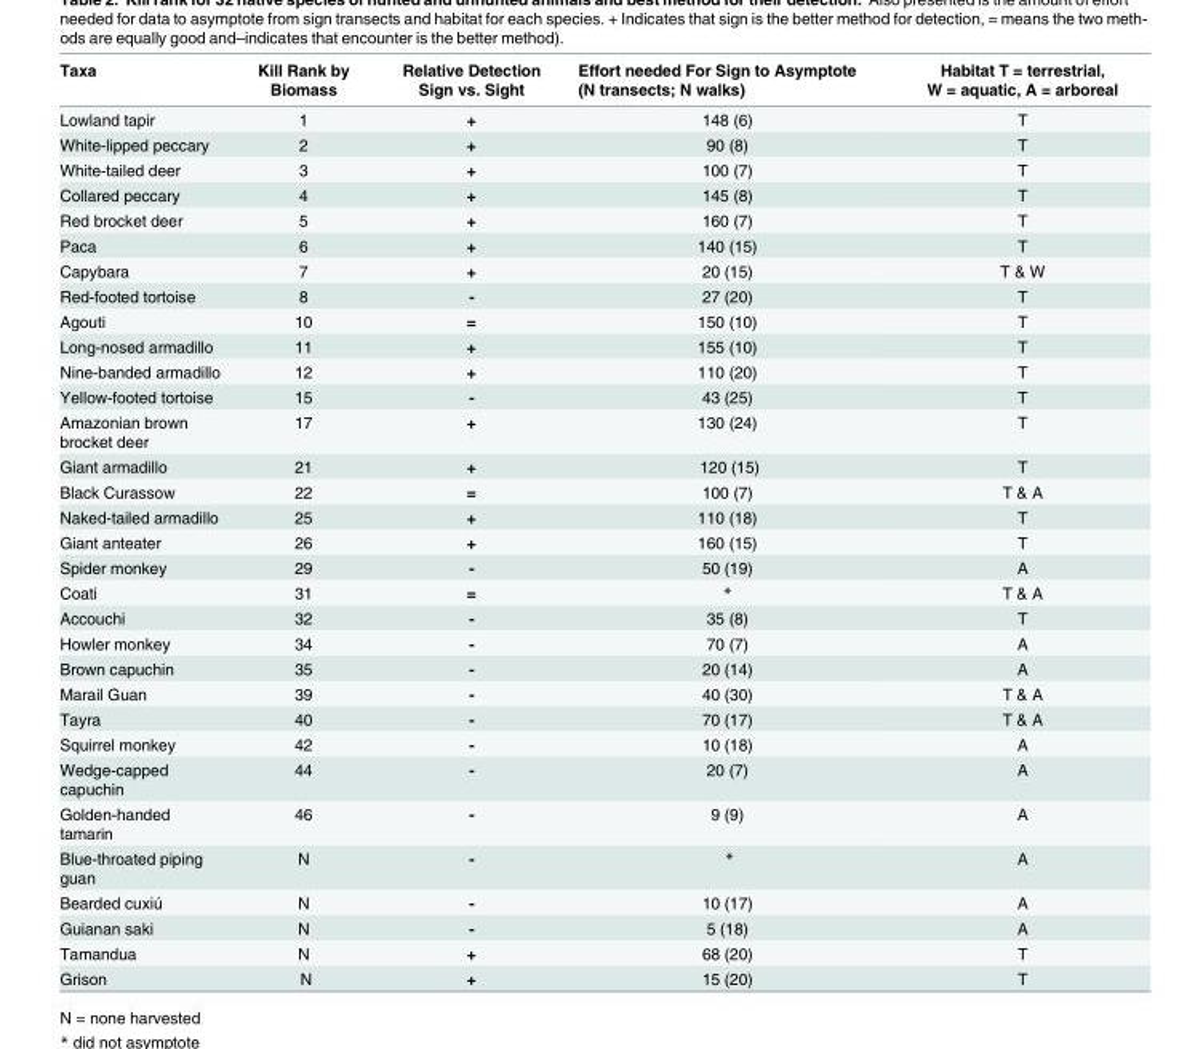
<table><thead><tr><td>Taxa</td><td>Kill Rank by Biomass</td><td>Relative Detection Sign vs. Sight</td><td>Effort needed For Sign to Asymptote (N transects; N walks)</td><td>Habitat T = terrestrial, W = aquatic, A = arboreal</td></tr></thead><tbody><tr><td>Lowland tapir</td><td>1</td><td>+</td><td>148 (6)</td><td>T</td></tr><tr><td>White-lipped peccary</td><td>2</td><td>+</td><td>90 (8)</td><td>T</td></tr><tr><td>White-tailed deer</td><td>3</td><td>+</td><td>100 (7)</td><td>T</td></tr><tr><td>Collared peccary</td><td>4</td><td>+</td><td>145 (8)</td><td>T</td></tr><tr><td>Red brocket deer</td><td>5</td><td>+</td><td>160 (7)</td><td>T</td></tr><tr><td>Paca</td><td>6</td><td>+</td><td>140 (15)</td><td>T</td></tr><tr><td>Capybara</td><td>7</td><td>+</td><td>20 (15)</td><td>T &amp; W</td></tr><tr><td>Red-footed tortoise</td><td>8</td><td>-</td><td>27 (20)</td><td>T</td></tr><tr><td>Agouti</td><td>10</td><td>=</td><td>150 (10)</td><td>T</td></tr><tr><td>Long-nosed armadillo</td><td>11</td><td>+</td><td>155 (10)</td><td>T</td></tr><tr><td>Nine-banded armadillo</td><td>12</td><td>+</td><td>110 (20)</td><td>T</td></tr><tr><td>Yellow-footed tortoise</td><td>15</td><td>-</td><td>43 (25)</td><td>T</td></tr><tr><td>Amazonian brown brocket deer</td><td>17</td><td>+</td><td>130 (24)</td><td>T</td></tr><tr><td>Giant armadillo</td><td>21</td><td>+</td><td>120 (15)</td><td>T</td></tr><tr><td>Black Curassow</td><td>22</td><td>=</td><td>100 (7)</td><td>T &amp; A</td></tr><tr><td>Naked-tailed armadillo</td><td>25</td><td>+</td><td>110 (18)</td><td>T</td></tr><tr><td>Giant anteater</td><td>26</td><td>+</td><td>160 (15)</td><td>T</td></tr><tr><td>Spider monkey</td><td>29</td><td>-</td><td>50 (19)</td><td>A</td></tr><tr><td>Coati</td><td>31</td><td>=</td><td>*</td><td>T &amp; A</td></tr><tr><td>Accouchi</td><td>32</td><td>-</td><td>35 (8)</td><td>T</td></tr><tr><td>Howler monkey</td><td>34</td><td>-</td><td>70 (7)</td><td>A</td></tr><tr><td>Brown capuchin</td><td>35</td><td>-</td><td>20 (14)</td><td>A</td></tr><tr><td>Marail Guan</td><td>39</td><td>-</td><td>40 (30)</td><td>T &amp; A</td></tr><tr><td>Tayra</td><td>40</td><td>-</td><td>70 (17)</td><td>T &amp; A</td></tr><tr><td>Squirrel monkey</td><td>42</td><td>-</td><td>10 (18)</td><td>A</td></tr><tr><td>Wedge-capped capuchin</td><td>44</td><td>-</td><td>20 (7)</td><td>A</td></tr><tr><td>Golden-handed tamarin</td><td>46</td><td>-</td><td>9 (9)</td><td>A</td></tr><tr><td>Blue-throated piping guan</td><td>N</td><td>-</td><td>*</td><td>A</td></tr><tr><td>Bearded cuxiú</td><td>N</td><td>-</td><td>10 (17)</td><td>A</td></tr><tr><td>Guianan saki</td><td>N</td><td>-</td><td>5 (18)</td><td>A</td></tr><tr><td>Tamandua</td><td>N</td><td>+</td><td>68 (20)</td><td>T</td></tr><tr><td>Grison</td><td>N</td><td>+</td><td>15 (20)</td><td>T</td></tr></tbody></table>